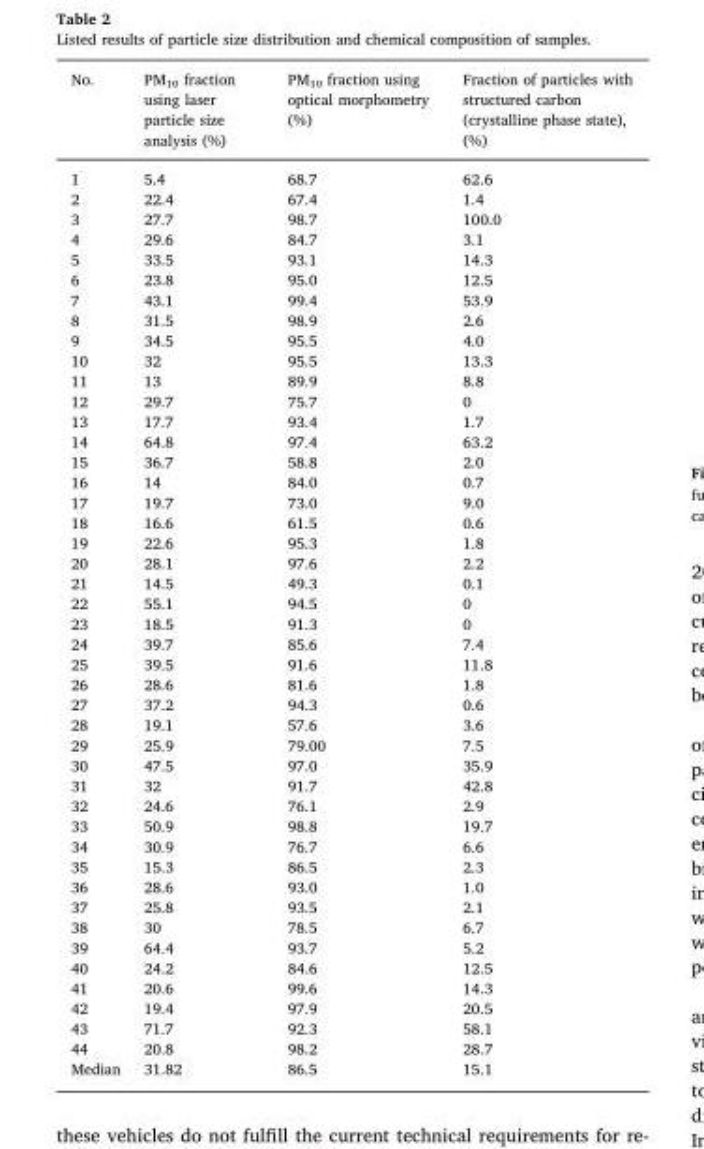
<table><thead><tr><td>No.</td><td>PM<sub>10</sub> fraction using laser particle size analysis (%)</td><td>PM<sub>10</sub> fraction using optical morphometry (%)</td><td>Fraction of particles with structured carbon (crystalline phase state), (%)</td></tr></thead><tbody><tr><td>1</td><td>5.4</td><td>68.7</td><td>62.6</td></tr><tr><td>2</td><td>22.4</td><td>67.4</td><td>1.4</td></tr><tr><td>3</td><td>27.7</td><td>98.7</td><td>100.0</td></tr><tr><td>4</td><td>29.6</td><td>84.7</td><td>3.1</td></tr><tr><td>5</td><td>33.5</td><td>93.1</td><td>14.3</td></tr><tr><td>6</td><td>23.8</td><td>95.0</td><td>12.5</td></tr><tr><td>7</td><td>43.1</td><td>99.4</td><td>53.9</td></tr><tr><td>8</td><td>31.5</td><td>98.9</td><td>2.6</td></tr><tr><td>9</td><td>34.5</td><td>95.5</td><td>4.0</td></tr><tr><td>10</td><td>32</td><td>95.5</td><td>13.3</td></tr><tr><td>11</td><td>13</td><td>89.9</td><td>8.8</td></tr><tr><td>12</td><td>29.7</td><td>75.7</td><td>0</td></tr><tr><td>13</td><td>17.7</td><td>93.4</td><td>1.7</td></tr><tr><td>14</td><td>64.8</td><td>97.4</td><td>63.2</td></tr><tr><td>15</td><td>36.7</td><td>58.8</td><td>2.0</td></tr><tr><td>16</td><td>14</td><td>84.0</td><td>0.7</td></tr><tr><td>17</td><td>19.7</td><td>73.0</td><td>9.0</td></tr><tr><td>18</td><td>16.6</td><td>61.5</td><td>0.6</td></tr><tr><td>19</td><td>22.6</td><td>95.3</td><td>1.8</td></tr><tr><td>20</td><td>28.1</td><td>97.6</td><td>2.2</td></tr><tr><td>21</td><td>14.5</td><td>49.3</td><td>0.1</td></tr><tr><td>22</td><td>55.1</td><td>94.5</td><td>0</td></tr><tr><td>23</td><td>18.5</td><td>91.3</td><td>0</td></tr><tr><td>24</td><td>39.7</td><td>85.6</td><td>7.4</td></tr><tr><td>25</td><td>39.5</td><td>91.6</td><td>11.8</td></tr><tr><td>26</td><td>28.6</td><td>81.6</td><td>1.8</td></tr><tr><td>27</td><td>37.2</td><td>94.3</td><td>0.6</td></tr><tr><td>28</td><td>19.1</td><td>57.6</td><td>3.6</td></tr><tr><td>29</td><td>25.9</td><td>79.00</td><td>7.5</td></tr><tr><td>30</td><td>47.5</td><td>97.0</td><td>35.9</td></tr><tr><td>31</td><td>32</td><td>91.7</td><td>42.8</td></tr><tr><td>32</td><td>24.6</td><td>76.1</td><td>2.9</td></tr><tr><td>33</td><td>50.9</td><td>98.8</td><td>19.7</td></tr><tr><td>34</td><td>30.9</td><td>76.7</td><td>6.6</td></tr><tr><td>35</td><td>15.3</td><td>86.5</td><td>2.3</td></tr><tr><td>36</td><td>28.6</td><td>93.0</td><td>1.0</td></tr><tr><td>37</td><td>25.8</td><td>93.5</td><td>2.1</td></tr><tr><td>38</td><td>30</td><td>78.5</td><td>6.7</td></tr><tr><td>39</td><td>64.4</td><td>93.7</td><td>5.2</td></tr><tr><td>40</td><td>24.2</td><td>84.6</td><td>12.5</td></tr><tr><td>41</td><td>20.6</td><td>99.6</td><td>14.3</td></tr><tr><td>42</td><td>19.4</td><td>97.9</td><td>20.5</td></tr><tr><td>43</td><td>71.7</td><td>92.3</td><td>58.1</td></tr><tr><td>44</td><td>20.8</td><td>98.2</td><td>28.7</td></tr><tr><td>Median</td><td>31.82</td><td>86.5</td><td>15.1</td></tr></tbody></table>